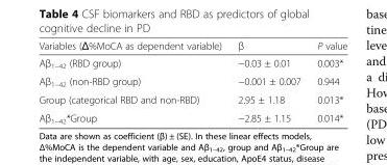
<table><thead><tr><td>Variables (Δ%MoCA as dependent variable)</td><td>β</td><td>P value</td></tr></thead><tbody><tr><td>Aβ<sub>1–42</sub> (RBD group)</td><td>−0.03 ± 0.01</td><td>0.003*</td></tr><tr><td>Aβ<sub>1–42</sub> (non-RBD group)</td><td>−0.001 ± 0.007</td><td>0.944</td></tr><tr><td>Group (categorical RBD and non-RBD)</td><td>2.95 ± 1.18</td><td>0.013*</td></tr><tr><td>Aβ<sub>1–42</sub>*Group</td><td>−2.85 ± 1.15</td><td>0.014*</td></tr></tbody></table>